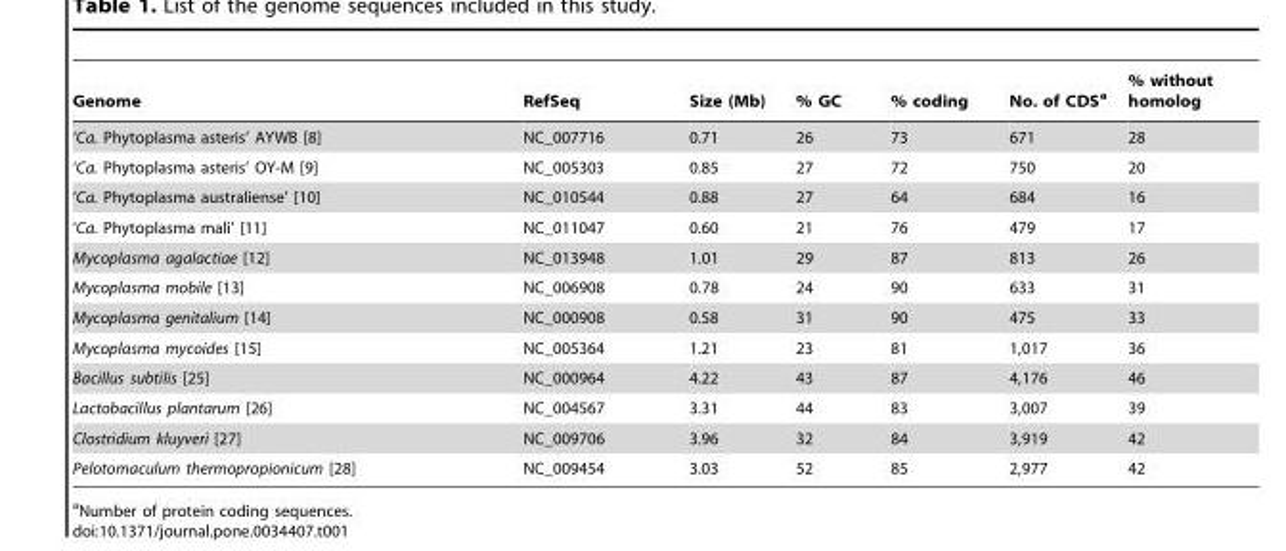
<table><thead><tr><td>Genome</td><td>RefSeq</td><td>Size (Mb)</td><td>% GC</td><td>% coding</td><td>No. of CDS<sup>a</sup></td><td>% without homolog</td></tr></thead><tbody><tr><td>‘Ca. Phytoplasma asteris’ AYWB [8]</td><td>NC_007716</td><td>0.71</td><td>26</td><td>73</td><td>671</td><td>28</td></tr><tr><td>‘Ca. Phytoplasma asteris’ OY-M [9]</td><td>NC_005303</td><td>0.85</td><td>27</td><td>72</td><td>750</td><td>20</td></tr><tr><td>‘Ca. Phytoplasma australiense’ [10]</td><td>NC_010544</td><td>0.88</td><td>27</td><td>64</td><td>684</td><td>16</td></tr><tr><td>‘Ca. Phytoplasma mali’ [11]</td><td>NC_011047</td><td>0.60</td><td>21</td><td>76</td><td>479</td><td>17</td></tr><tr><td>Mycoplasma agalactiae [12]</td><td>NC_013948</td><td>1.01</td><td>29</td><td>87</td><td>813</td><td>26</td></tr><tr><td>Mycoplasma mobile [13]</td><td>NC_006908</td><td>0.78</td><td>24</td><td>90</td><td>633</td><td>31</td></tr><tr><td>Mycoplasma genitalium [14]</td><td>NC_000908</td><td>0.58</td><td>31</td><td>90</td><td>475</td><td>33</td></tr><tr><td>Mycoplasma mycoides [15]</td><td>NC_005364</td><td>1.21</td><td>23</td><td>81</td><td>1,017</td><td>36</td></tr><tr><td>Bacillus subtilis [25]</td><td>NC_000964</td><td>4.22</td><td>43</td><td>87</td><td>4,176</td><td>46</td></tr><tr><td>Lactobacillus plantarum [26]</td><td>NC_004567</td><td>3.31</td><td>44</td><td>83</td><td>3,007</td><td>39</td></tr><tr><td>Clostridium kluyveri [27]</td><td>NC_009706</td><td>3.96</td><td>32</td><td>84</td><td>3,919</td><td>42</td></tr><tr><td>Pelotomaculum thermopropionicum [28]</td><td>NC_009454</td><td>3.03</td><td>52</td><td>85</td><td>2,977</td><td>42</td></tr></tbody></table>